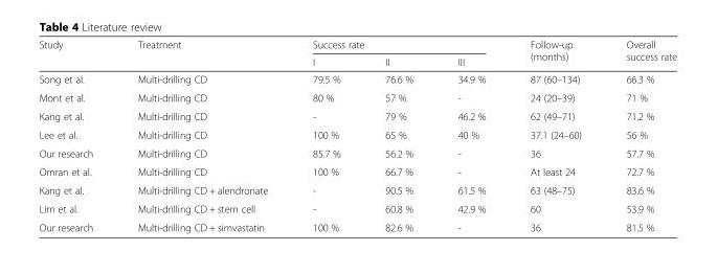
<table><thead><tr><td rowspan="2">Study</td><td rowspan="2">Treatment</td><td colspan="3">Success rate</td><td rowspan="2">Follow-up (months)</td><td rowspan="2">Overall success rate</td></tr><tr><td>I</td><td>II</td><td>III</td></tr></thead><tbody><tr><td>Song et al.</td><td>Multi-drilling CD</td><td>79.5 %</td><td>76.6 %</td><td>34.9 %</td><td>87 (60–134)</td><td>66.3 %</td></tr><tr><td>Mont et al.</td><td>Multi-drilling CD</td><td>80 %</td><td>57 %</td><td>-</td><td>24 (20–39)</td><td>71 %</td></tr><tr><td>Kang et al.</td><td>Multi-drilling CD</td><td>-</td><td>79 %</td><td>46.2 %</td><td>62 (49–71)</td><td>71.2 %</td></tr><tr><td>Lee et al.</td><td>Multi-drilling CD</td><td>100 %</td><td>65 %</td><td>40 %</td><td>37.1 (24–60)</td><td>56 %</td></tr><tr><td>Our research</td><td>Multi-drilling CD</td><td>85.7 %</td><td>56.2 %</td><td>-</td><td>36</td><td>57.7 %</td></tr><tr><td>Omran et al.</td><td>Multi-drilling CD</td><td>100 %</td><td>66.7 %</td><td>-</td><td>At least 24</td><td>72.7 %</td></tr><tr><td>Kang et al.</td><td>Multi-drilling CD + alendronate</td><td>-</td><td>90.5 %</td><td>61.5 %</td><td>63 (48–75)</td><td>83.6 %</td></tr><tr><td>Lim et al.</td><td>Multi-drilling CD + stem cell</td><td>-</td><td>60.8 %</td><td>42.9 %</td><td>60</td><td>53.9 %</td></tr><tr><td>Our research</td><td>Multi-drilling CD + simvastatin</td><td>100 %</td><td>82.6 %</td><td>-</td><td>36</td><td>81.5 %</td></tr></tbody></table>